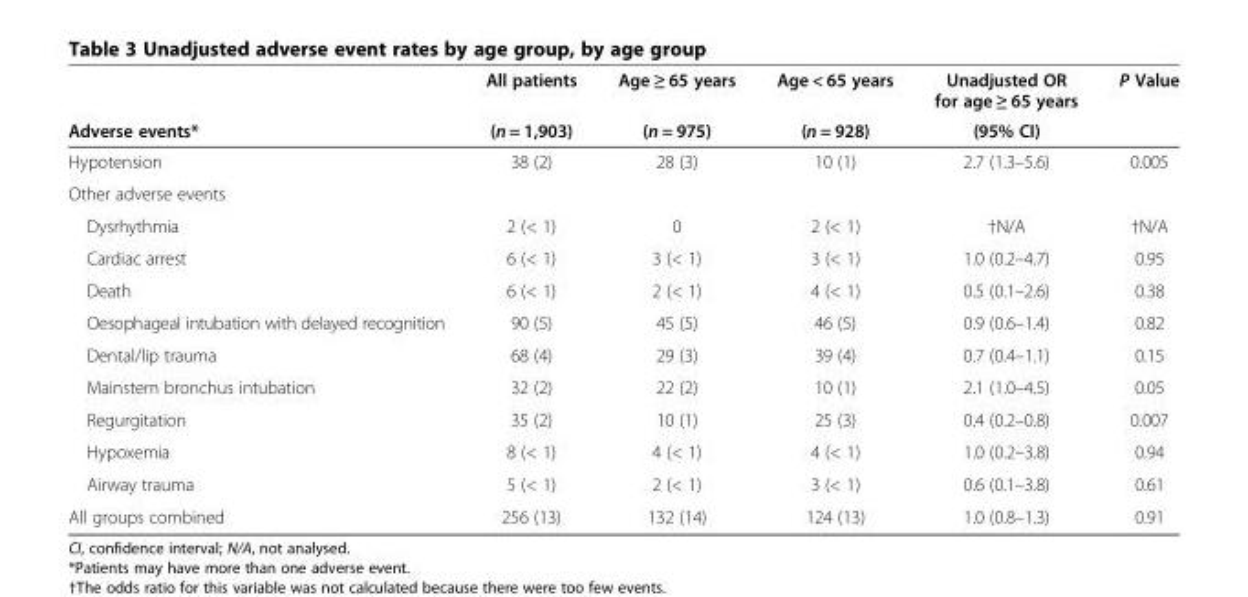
<table><thead><tr><td rowspan="2">Adverse events*</td><td rowspan="2">All patients (n = 1,903)</td><td rowspan="2">Age ≥ 65 years (n = 975)</td><td rowspan="2">Age &lt; 65 years (n = 928)</td><td rowspan="2">Unadjusted OR for age ≥ 65 years (95% CI)</td><td rowspan="2">P Value</td></tr><tr></tr></thead><tbody><tr><td>Hypotension</td><td>38 (2)</td><td>28 (3)</td><td>10 (1)</td><td>2.7 (1.3–5.6)</td><td>0.005</td></tr><tr><td colspan="6">Other adverse events</td></tr><tr><td>Dysrhythmia</td><td>2 (&lt; 1)</td><td>0</td><td>2 (&lt; 1)</td><td>†N/A</td><td>†N/A</td></tr><tr><td>Cardiac arrest</td><td>6 (&lt; 1)</td><td>3 (&lt; 1)</td><td>3 (&lt; 1)</td><td>1.0 (0.2–4.7)</td><td>0.95</td></tr><tr><td>Death</td><td>6 (&lt; 1)</td><td>2 (&lt; 1)</td><td>4 (&lt; 1)</td><td>0.5 (0.1–2.6)</td><td>0.38</td></tr><tr><td>Oesophageal intubation with delayed recognition</td><td>90 (5)</td><td>45 (5)</td><td>46 (5)</td><td>0.9 (0.6–1.4)</td><td>0.82</td></tr><tr><td>Dental/lip trauma</td><td>68 (4)</td><td>29 (3)</td><td>39 (4)</td><td>0.7 (0.4–1.1)</td><td>0.15</td></tr><tr><td>Mainstem bronchus intubation</td><td>32 (2)</td><td>22 (2)</td><td>10 (1)</td><td>2.1 (1.0–4.5)</td><td>0.05</td></tr><tr><td>Regurgitation</td><td>35 (2)</td><td>10 (1)</td><td>25 (3)</td><td>0.4 (0.2–0.8)</td><td>0.007</td></tr><tr><td>Hypoxemia</td><td>8 (&lt; 1)</td><td>4 (&lt; 1)</td><td>4 (&lt; 1)</td><td>1.0 (0.2–3.8)</td><td>0.94</td></tr><tr><td>Airway trauma</td><td>5 (&lt; 1)</td><td>2 (&lt; 1)</td><td>3 (&lt; 1)</td><td>0.6 (0.1–3.8)</td><td>0.61</td></tr><tr><td>All groups combined</td><td>256 (13)</td><td>132 (14)</td><td>124 (13)</td><td>1.0 (0.8–1.3)</td><td>0.91</td></tr></tbody></table>